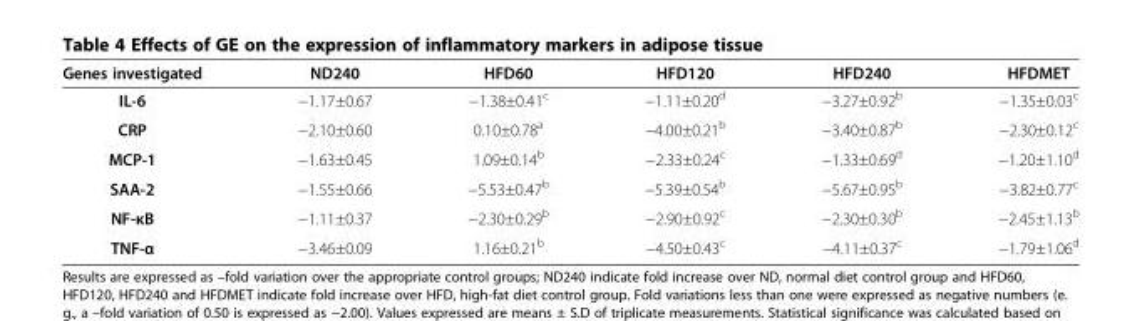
<table><thead><tr><td>Genes investigated</td><td>ND240</td><td>HFD60</td><td>HFD120</td><td>HFD240</td><td>HFDMET</td></tr></thead><tbody><tr><td>IL-6</td><td>−1.17±0.67</td><td>−1.38±0.41<sup>c</sup></td><td>−1.11±0.20<sup>d</sup></td><td>−3.27±0.92<sup>b</sup></td><td>−1.35±0.03<sup>c</sup></td></tr><tr><td>CRP</td><td>−2.10±0.60</td><td>0.10±0.78<sup>a</sup></td><td>−4.00±0.21<sup>b</sup></td><td>−3.40±0.87<sup>b</sup></td><td>−2.30±0.12<sup>c</sup></td></tr><tr><td>MCP-1</td><td>−1.63±0.45</td><td>1.09±0.14<sup>b</sup></td><td>−2.33±0.24<sup>c</sup></td><td>−1.33±0.69<sup>d</sup></td><td>−1.20±1.10<sup>d</sup></td></tr><tr><td>SAA-2</td><td>−1.55±0.66</td><td>−5.53±0.47<sup>b</sup></td><td>−5.39±0.54<sup>b</sup></td><td>−5.67±0.95<sup>b</sup></td><td>−3.82±0.77<sup>c</sup></td></tr><tr><td>NF-κB</td><td>−1.11±0.37</td><td>−2.30±0.29<sup>b</sup></td><td>−2.90±0.92<sup>c</sup></td><td>−2.30±0.30<sup>b</sup></td><td>−2.45±1.13<sup>b</sup></td></tr><tr><td>TNF-α</td><td>−3.46±0.09</td><td>1.16±0.21<sup>b</sup></td><td>−4.50±0.43<sup>c</sup></td><td>−4.11±0.37<sup>c</sup></td><td>−1.79±1.06<sup>d</sup></td></tr></tbody></table>